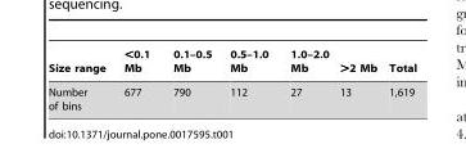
<table><thead><tr><td>Size range</td><td>&lt;0.1 Mb</td><td>0.1–0.5 Mb</td><td>0.5–1.0 Mb</td><td>1.0–2.0 Mb</td><td>&gt;2 Mb</td><td>Total</td></tr></thead><tbody><tr><td>Number of bins</td><td>677</td><td>790</td><td>112</td><td>27</td><td>13</td><td>1,619</td></tr></tbody></table>